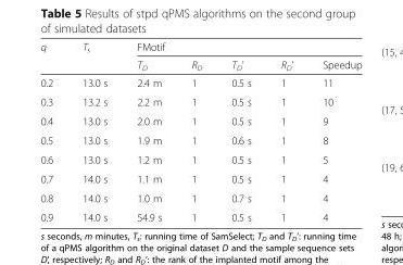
<table><thead><tr><td rowspan="2">q</td><td rowspan="2">T<sub>s</sub></td><td colspan="5">FMotif</td></tr><tr><td>T<sub>D</sub></td><td>R<sub>D</sub></td><td>T<sub>D</sub>’</td><td>R<sub>D</sub>’</td><td>Speedup</td></tr></thead><tbody><tr><td>0.2</td><td>13.0 s</td><td>2.4 m</td><td>1</td><td>0.5 s</td><td>1</td><td>11</td></tr><tr><td>0.3</td><td>13.2 s</td><td>2.2 m</td><td>1</td><td>0.5 s</td><td>1</td><td>10</td></tr><tr><td>0.4</td><td>13.0 s</td><td>2.0 m</td><td>1</td><td>0.5 s</td><td>1</td><td>9</td></tr><tr><td>0.5</td><td>13.0 s</td><td>1.9 m</td><td>1</td><td>0.6 s</td><td>1</td><td>8</td></tr><tr><td>0.6</td><td>13.0 s</td><td>1.2 m</td><td>1</td><td>0.5 s</td><td>1</td><td>5</td></tr><tr><td>0.7</td><td>14.0 s</td><td>1.1 m</td><td>1</td><td>0.5 s</td><td>1</td><td>4</td></tr><tr><td>0.8</td><td>14.0 s</td><td>1.0 m</td><td>1</td><td>0.7 s</td><td>1</td><td>4</td></tr><tr><td>0.9</td><td>14.0 s</td><td>54.9 s</td><td>1</td><td>0.5 s</td><td>1</td><td>4</td></tr></tbody></table>